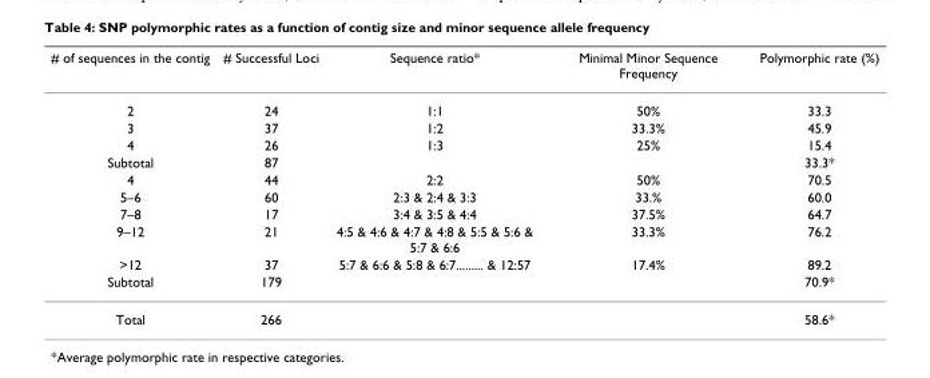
<table><thead><tr><td># of sequences in the contig</td><td># Successful Loci</td><td>Sequence ratio*</td><td>Minimal Minor Sequence Frequency</td><td>Polymorphic rate (%)</td></tr></thead><tbody><tr><td>2</td><td>24</td><td>1:1</td><td>50%</td><td>33.3</td></tr><tr><td>3</td><td>37</td><td>1:2</td><td>33.3%</td><td>45.9</td></tr><tr><td>4</td><td>26</td><td>1:3</td><td>25%</td><td>15.4</td></tr><tr><td>Subtotal</td><td>87</td><td></td><td></td><td>33.3*</td></tr><tr><td>4</td><td>44</td><td>2:2</td><td>50%</td><td>70.5</td></tr><tr><td>5–6</td><td>60</td><td>2:3 &amp; 2:4 &amp; 3:3</td><td>33.%</td><td>60.0</td></tr><tr><td>7–8</td><td>17</td><td>3:4 &amp; 3:5 &amp; 4:4</td><td>37.5%</td><td>64.7</td></tr><tr><td>9–12</td><td>21</td><td>4:5 &amp; 4:6 &amp; 4:7 &amp; 4:8 &amp; 5:5 &amp; 5:6 &amp; 5:7 &amp; 6:6</td><td>33.3%</td><td>76.2</td></tr><tr><td>&gt;12</td><td>37</td><td>5:7 &amp; 6:6 &amp; 5:8 &amp; 6:7......... &amp; 12:57</td><td>17.4%</td><td>89.2</td></tr><tr><td>Subtotal</td><td>179</td><td></td><td></td><td>70.9*</td></tr><tr><td>Total</td><td>266</td><td></td><td></td><td>58.6*</td></tr></tbody></table>